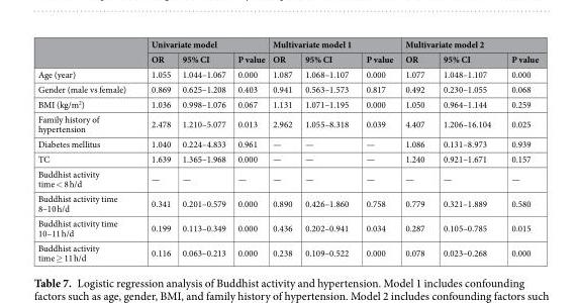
<table><thead><tr><td rowspan="2"></td><td colspan="3">Univariate model</td><td colspan="3">Multivariate model 1</td><td colspan="3">Multivariate model 2</td></tr><tr><td>OR</td><td>95% CI</td><td>P value</td><td>OR</td><td>95% CI</td><td>P value</td><td>OR</td><td>95% CI</td><td>P value</td></tr></thead><tbody><tr><td>Age (year)</td><td>1.055</td><td>1.044–1.067</td><td>0.000</td><td>1.087</td><td>1.068–1.107</td><td>0.000</td><td>1.077</td><td>1.048–1.107</td><td>0.000</td></tr><tr><td>Gender (male vs female)</td><td>0.869</td><td>0.625–1.208</td><td>0.403</td><td>0.941</td><td>0.563–1.573</td><td>0.817</td><td>0.492</td><td>0.230–1.055</td><td>0.068</td></tr><tr><td>BMI (kg/m<sup>2</sup>)</td><td>1.036</td><td>0.998–1.076</td><td>0.067</td><td>1.131</td><td>1.071–1.195</td><td>0.000</td><td>1.050</td><td>0.964–1.144</td><td>0.259</td></tr><tr><td>Family history of hypertension</td><td>2.478</td><td>1.210–5.077</td><td>0.013</td><td>2.962</td><td>1.055–8.318</td><td>0.039</td><td>4.407</td><td>1.206–16.104</td><td>0.025</td></tr><tr><td>Diabetes mellitus</td><td>1.040</td><td>0.224–4.833</td><td>0.961</td><td>—</td><td>—</td><td>—</td><td>1.086</td><td>0.131–8.973</td><td>0.939</td></tr><tr><td>TC</td><td>1.639</td><td>1.365–1.968</td><td>0.000</td><td>—</td><td>—</td><td>—</td><td>1.240</td><td>0.921–1.671</td><td>0.157</td></tr><tr><td>Buddhist activity time &lt; 8 h/d</td><td>—</td><td>—</td><td>—</td><td>—</td><td>—</td><td>—</td><td>—</td><td>—</td><td>—</td></tr><tr><td>Buddhist activity time 8–10 h/d</td><td>0.341</td><td>0.201–0.579</td><td>0.000</td><td>0.890</td><td>0.426–1.860</td><td>0.758</td><td>0.779</td><td>0.321–1.889</td><td>0.580</td></tr><tr><td>Buddhist activity time 10–11 h/d</td><td>0.199</td><td>0.113–0.349</td><td>0.000</td><td>0.436</td><td>0.202–0.941</td><td>0.034</td><td>0.287</td><td>0.105–0.785</td><td>0.015</td></tr><tr><td>Buddhist activity time ≥ 11 h/d</td><td>0.116</td><td>0.063–0.213</td><td>0.000</td><td>0.238</td><td>0.109–0.522</td><td>0.000</td><td>0.078</td><td>0.023–0.268</td><td>0.000</td></tr></tbody></table>